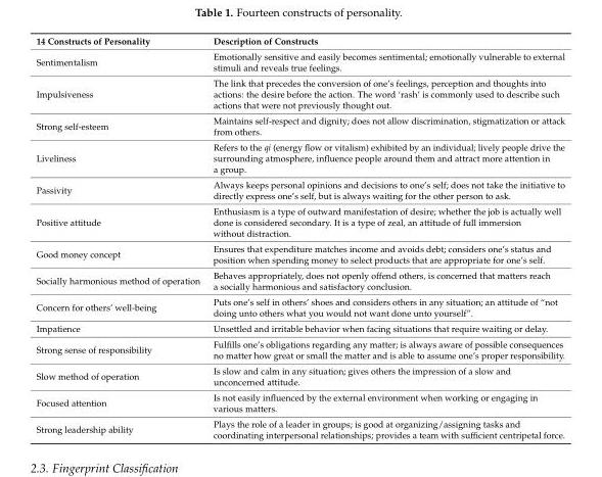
<table><thead><tr><td>14 Constructs of Personality</td><td>Description of Constructs</td></tr></thead><tbody><tr><td>Sentimentalism</td><td>Emotionally sensitive and easily becomes sentimental; emotionally vulnerable to external stimuli and reveals true feelings.</td></tr><tr><td>Impulsiveness</td><td>The link that precedes the conversion of one’s feelings, perception and thoughts into actions: the desire before the action. The word ‘rash’ is commonly used to describe such actions that were not previously thought out.</td></tr><tr><td>Strong self-esteem</td><td>Maintains self-respect and dignity; does not allow discrimination, stigmatization or attack from others.</td></tr><tr><td>Liveliness</td><td>Refers to the qi (energy flow or vitalism) exhibited by an individual; lively people drive the surrounding atmosphere, influence people around them and attract more attention in a group.</td></tr><tr><td>Passivity</td><td>Always keeps personal opinions and decisions to one’s self; does not take the initiative to directly express one’s self, but is always waiting for the other person to ask.</td></tr><tr><td>Positive attitude</td><td>Enthusiasm is a type of outward manifestation of desire; whether the job is actually well done is considered secondary. It is a type of zeal, an attitude of full immersion without distraction.</td></tr><tr><td>Good money concept</td><td>Ensures that expenditure matches income and avoids debt; considers one’s status and position when spending money to select products that are appropriate for one’s self.</td></tr><tr><td>Socially harmonious method of operation</td><td>Behaves appropriately, does not openly offend others, is concerned that matters reach a socially harmonious and satisfactory conclusion.</td></tr><tr><td>Concern for others’ well-being</td><td>Puts one’s self in others’ shoes and considers others in any situation; an attitude of “not doing unto others what you would not want done unto yourself”.</td></tr><tr><td>Impatience</td><td>Unsettled and irritable behavior when facing situations that require waiting or delay.</td></tr><tr><td>Strong sense of responsibility</td><td>Fulfills one’s obligations regarding any matter; is always aware of possible consequences no matter how great or small the matter and is able to assume one’s proper responsibility.</td></tr><tr><td>Slow method of operation</td><td>Is slow and calm in any situation; gives others the impression of a slow and unconcerned attitude.</td></tr><tr><td>Focused attention</td><td>Is not easily influenced by the external environment when working or engaging in various matters.</td></tr><tr><td>Strong leadership ability</td><td>Plays the role of a leader in groups; is good at organizing/assigning tasks and coordinating interpersonal relationships; provides a team with sufficient centripetal force.</td></tr></tbody></table>